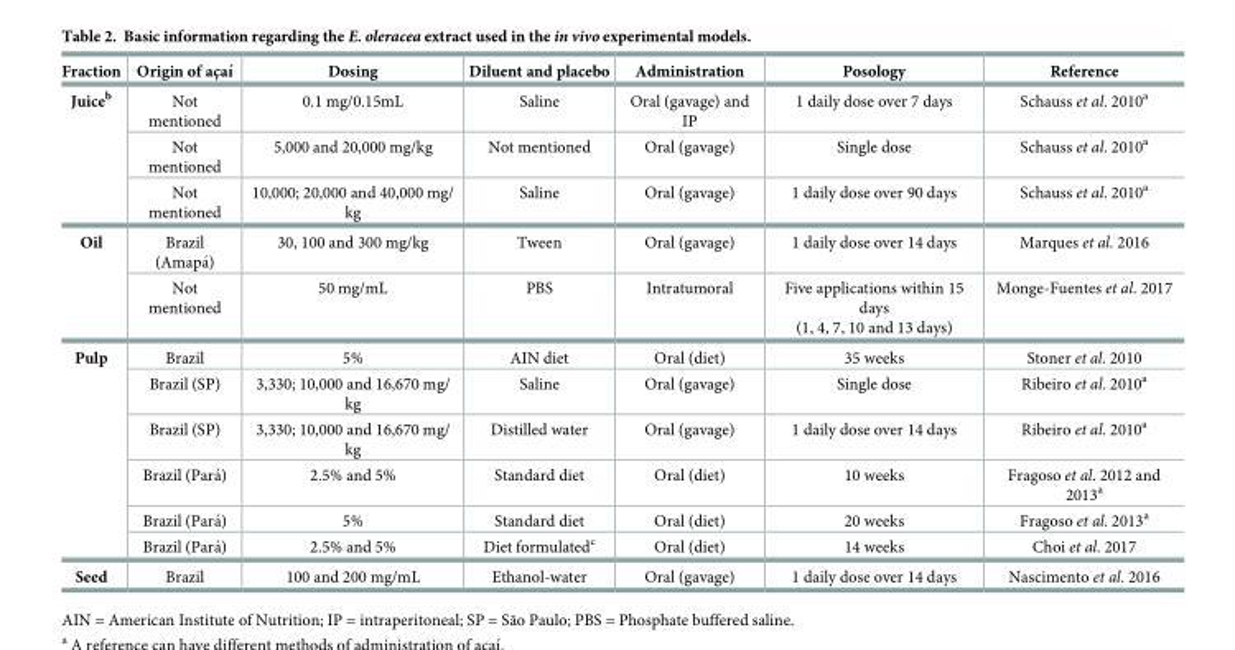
<table><thead><tr><td>Fraction</td><td>Origin of ac¸aı´</td><td>Dosing</td><td>Diluent and placebo</td><td>Administration</td><td>Posology</td><td>Reference</td></tr></thead><tbody><tr><td rowspan="3">Juice<sup>b</sup></td><td>Not mentioned</td><td>0.1 mg/0.15mL</td><td>Saline</td><td>Oral (gavage) and IP</td><td>1 daily dose over 7 days</td><td>Schauss et al. 2010<sup>a</sup></td></tr><tr><td>Not mentioned</td><td>5,000 and 20,000 mg/kg</td><td>Not mentioned</td><td>Oral (gavage)</td><td>Single dose</td><td>Schauss et al. 2010<sup>a</sup></td></tr><tr><td>Not mentioned</td><td>10,000; 20,000 and 40,000 mg/ kg</td><td>Saline</td><td>Oral (gavage)</td><td>1 daily dose over 90 days</td><td>Schauss et al. 2010<sup>a</sup></td></tr><tr><td rowspan="2">Oil</td><td>Brazil (Amapa´)</td><td>30, 100 and 300 mg/kg</td><td>Tween</td><td>Oral (gavage)</td><td>1 daily dose over 14 days</td><td>Marques et al. 2016</td></tr><tr><td>Not mentioned</td><td>50 mg/mL</td><td>PBS</td><td>Intratumoral</td><td>Five applications within 15 days (1, 4, 7, 10 and 13 days)</td><td>Monge-Fuentes et al. 2017</td></tr><tr><td rowspan="6">Pulp</td><td>Brazil</td><td>5%</td><td>AIN diet</td><td>Oral (diet)</td><td>35 weeks</td><td>Stoner et al. 2010</td></tr><tr><td>Brazil (SP)</td><td>3,330; 10,000 and 16,670 mg/ kg</td><td>Saline</td><td>Oral (gavage)</td><td>Single dose</td><td>Ribeiro et al. 2010<sup>a</sup></td></tr><tr><td>Brazil (SP)</td><td>3,330; 10,000 and 16,670 mg/ kg</td><td>Distilled water</td><td>Oral (gavage)</td><td>1 daily dose over 14 days</td><td>Ribeiro et al. 2010<sup>a</sup></td></tr><tr><td>Brazil (Para´)</td><td>2.5% and 5%</td><td>Standard diet</td><td>Oral (diet)</td><td>10 weeks</td><td>Fragoso et al. 2012 and 2013<sup>a</sup></td></tr><tr><td>Brazil (Para´)</td><td>5%</td><td>Standard diet</td><td>Oral (diet)</td><td>20 weeks</td><td>Fragoso et al. 2013<sup>a</sup></td></tr><tr><td>Brazil (Para´)</td><td>2.5% and 5%</td><td>Diet formulated<sup>c</sup></td><td>Oral (diet)</td><td>14 weeks</td><td>Choi et al. 2017</td></tr><tr><td>Seed</td><td>Brazil</td><td>100 and 200 mg/mL</td><td>Ethanol-water</td><td>Oral (gavage)</td><td>1 daily dose over 14 days</td><td>Nascimento et al. 2016</td></tr></tbody></table>